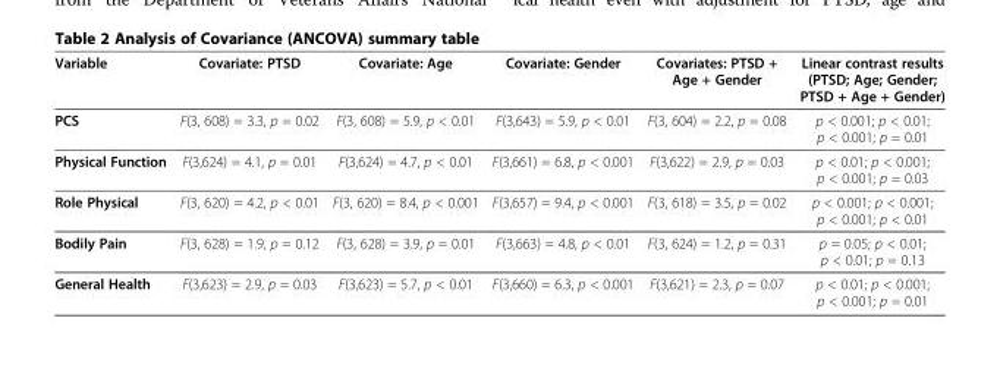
<table><thead><tr><td>Variable</td><td>Covariate: PTSD</td><td>Covariate: Age</td><td>Covariate: Gender</td><td>Covariates: PTSD + Age + Gender</td><td>Linear contrast results (PTSD; Age; Gender; PTSD + Age + Gender)</td></tr></thead><tbody><tr><td>PCS</td><td>F(3, 608) = 3.3, p = 0.02</td><td>F(3, 608) = 5.9, p &lt; 0.01</td><td>F(3,643) = 5.9, p &lt; 0.01</td><td>F(3, 604) = 2.2, p = 0.08</td><td>p &lt; 0.001; p &lt; 0.01; p &lt; 0.001; p = 0.01</td></tr><tr><td>Physical Function</td><td>F(3,624) = 4.1, p = 0.01</td><td>F(3,624) = 4.7, p &lt; 0.01</td><td>F(3,661) = 6.8, p &lt; 0.001</td><td>F(3,622) = 2.9, p = 0.03</td><td>p &lt; 0.01; p &lt; 0.001; p &lt; 0.001; p = 0.03</td></tr><tr><td>Role Physical</td><td>F(3, 620) = 4.2, p &lt; 0.01</td><td>F(3, 620) = 8.4, p &lt; 0.001</td><td>F(3,657) = 9.4, p &lt; 0.001</td><td>F(3, 618) = 3.5, p = 0.02</td><td>p &lt; 0.001; p &lt; 0.001; p &lt; 0.001; p &lt; 0.01</td></tr><tr><td>Bodily Pain</td><td>F(3, 628) = 1.9, p = 0.12</td><td>F(3, 628) = 3.9, p = 0.01</td><td>F(3,663) = 4.8, p &lt; 0.01</td><td>F(3, 624) = 1.2, p = 0.31</td><td>p = 0.05; p &lt; 0.01; p &lt; 0.01; p = 0.13</td></tr><tr><td>General Health</td><td>F(3,623) = 2.9, p = 0.03</td><td>F(3,623) = 5.7, p &lt; 0.01</td><td>F(3,660) = 6.3, p &lt; 0.001</td><td>F(3,621) = 2.3, p = 0.07</td><td>p &lt; 0.01; p &lt; 0.001; p &lt; 0.001; p = 0.01</td></tr></tbody></table>